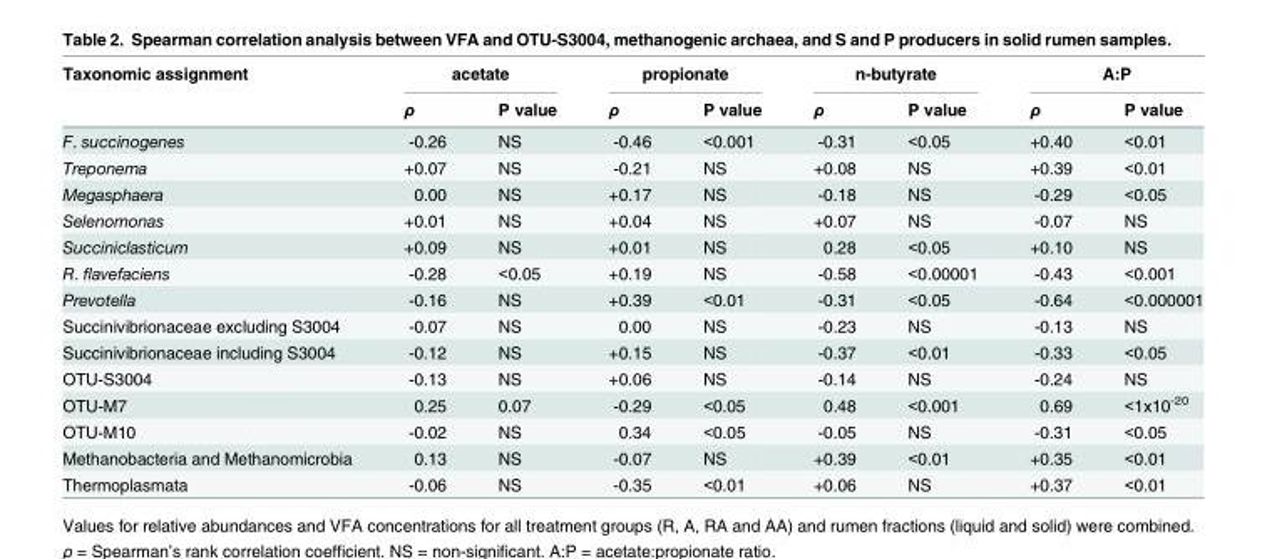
<table><thead><tr><td rowspan="2">Taxonomic assignment</td><td colspan="2">acetate</td><td colspan="2">propionate</td><td colspan="2">n-butyrate</td><td colspan="2">A:P</td></tr><tr><td>ρ</td><td>P value</td><td>ρ</td><td>P value</td><td>ρ</td><td>P value</td><td>ρ</td><td>P value</td></tr></thead><tbody><tr><td>F. succinogenes</td><td>-0.26</td><td>NS</td><td>-0.46</td><td>&lt;0.001</td><td>-0.31</td><td>&lt;0.05</td><td>+0.40</td><td>&lt;0.01</td></tr><tr><td>Treponema</td><td>+0.07</td><td>NS</td><td>-0.21</td><td>NS</td><td>+0.08</td><td>NS</td><td>+0.39</td><td>&lt;0.01</td></tr><tr><td>Megasphaera</td><td>0.00</td><td>NS</td><td>+0.17</td><td>NS</td><td>-0.18</td><td>NS</td><td>-0.29</td><td>&lt;0.05</td></tr><tr><td>Selenomonas</td><td>+0.01</td><td>NS</td><td>+0.04</td><td>NS</td><td>+0.07</td><td>NS</td><td>-0.07</td><td>NS</td></tr><tr><td>Succiniclasticum</td><td>+0.09</td><td>NS</td><td>+0.01</td><td>NS</td><td>0.28</td><td>&lt;0.05</td><td>+0.10</td><td>NS</td></tr><tr><td>R. flavefaciens</td><td>-0.28</td><td>&lt;0.05</td><td>+0.19</td><td>NS</td><td>-0.58</td><td>&lt;0.00001</td><td>-0.43</td><td>&lt;0.001</td></tr><tr><td>Prevotella</td><td>-0.16</td><td>NS</td><td>+0.39</td><td>&lt;0.01</td><td>-0.31</td><td>&lt;0.05</td><td>-0.64</td><td>&lt;0.000001</td></tr><tr><td>Succinivibrionaceae excluding S3004</td><td>-0.07</td><td>NS</td><td>0.00</td><td>NS</td><td>-0.23</td><td>NS</td><td>-0.13</td><td>NS</td></tr><tr><td>Succinivibrionaceae including S3004</td><td>-0.12</td><td>NS</td><td>+0.15</td><td>NS</td><td>-0.37</td><td>&lt;0.01</td><td>-0.33</td><td>&lt;0.05</td></tr><tr><td>OTU-S3004</td><td>-0.13</td><td>NS</td><td>+0.06</td><td>NS</td><td>-0.14</td><td>NS</td><td>-0.24</td><td>NS</td></tr><tr><td>OTU-M7</td><td>0.25</td><td>0.07</td><td>-0.29</td><td>&lt;0.05</td><td>0.48</td><td>&lt;0.001</td><td>0.69</td><td>&lt;1x10<sup>-20</sup></td></tr><tr><td>OTU-M10</td><td>-0.02</td><td>NS</td><td>0.34</td><td>&lt;0.05</td><td>-0.05</td><td>NS</td><td>-0.31</td><td>&lt;0.05</td></tr><tr><td>Methanobacteria and Methanomicrobia</td><td>0.13</td><td>NS</td><td>-0.07</td><td>NS</td><td>+0.39</td><td>&lt;0.01</td><td>+0.35</td><td>&lt;0.01</td></tr><tr><td>Thermoplasmata</td><td>-0.06</td><td>NS</td><td>-0.35</td><td>&lt;0.01</td><td>+0.06</td><td>NS</td><td>+0.37</td><td>&lt;0.01</td></tr></tbody></table>